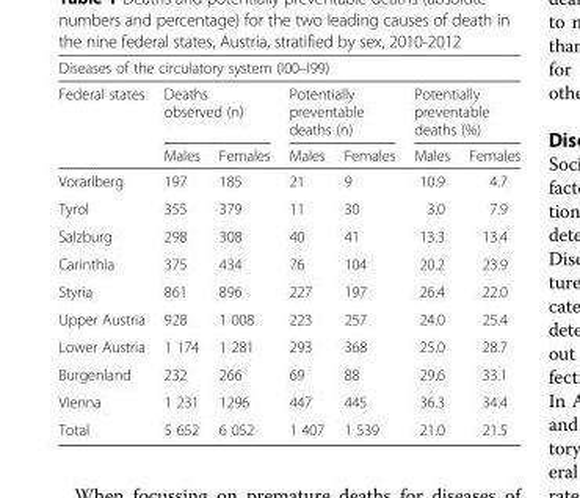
<table><thead><tr><td colspan="7">Diseases of the circulatory system (I00–I99)</td></tr><tr><td rowspan="2">Federal states</td><td colspan="2">Deaths observed (n)</td><td colspan="2">Potentially preventable deaths (n)</td><td colspan="2">Potentially preventable deaths (%)</td></tr><tr><td>Males</td><td>Females</td><td>Males</td><td>Females</td><td>Males</td><td>Females</td></tr></thead><tbody><tr><td>Vorarlberg</td><td>197</td><td>185</td><td>21</td><td>9</td><td>10.9</td><td>4.7</td></tr><tr><td>Tyrol</td><td>355</td><td>379</td><td>11</td><td>30</td><td>3.0</td><td>7.9</td></tr><tr><td>Salzburg</td><td>298</td><td>308</td><td>40</td><td>41</td><td>13.3</td><td>13.4</td></tr><tr><td>Carinthia</td><td>375</td><td>434</td><td>76</td><td>104</td><td>20.2</td><td>23.9</td></tr><tr><td>Styria</td><td>861</td><td>896</td><td>227</td><td>197</td><td>26.4</td><td>22.0</td></tr><tr><td>Upper Austria</td><td>928</td><td>1 008</td><td>223</td><td>257</td><td>24.0</td><td>25.4</td></tr><tr><td>Lower Austria</td><td>1 174</td><td>1 281</td><td>293</td><td>368</td><td>25.0</td><td>28.7</td></tr><tr><td>Burgenland</td><td>232</td><td>266</td><td>69</td><td>88</td><td>29.6</td><td>33.1</td></tr><tr><td>Vienna</td><td>1 231</td><td>1296</td><td>447</td><td>445</td><td>36.3</td><td>34.4</td></tr><tr><td>Total</td><td>5 652</td><td>6 052</td><td>1 407</td><td>1 539</td><td>21.0</td><td>21.5</td></tr></tbody></table>